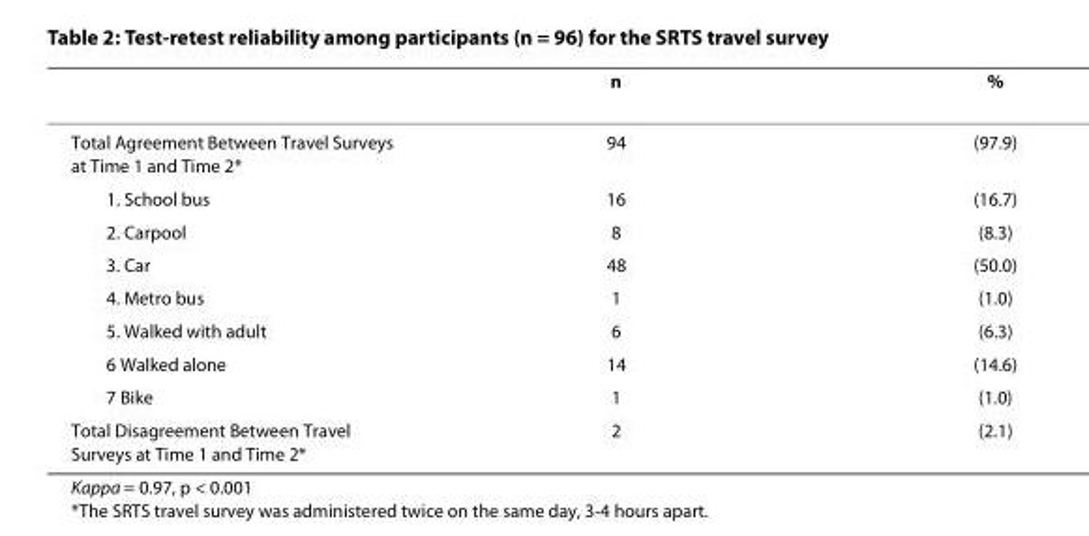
<table><thead><tr><td></td><td>n</td><td>%</td></tr></thead><tbody><tr><td>Total Agreement Between Travel Surveys at Time 1 and Time 2*</td><td>94</td><td>(97.9)</td></tr><tr><td>1. School bus</td><td>16</td><td>(16.7)</td></tr><tr><td>2. Carpool</td><td>8</td><td>(8.3)</td></tr><tr><td>3. Car</td><td>48</td><td>(50.0)</td></tr><tr><td>4. Metro bus</td><td>1</td><td>(1.0)</td></tr><tr><td>5. Walked with adult</td><td>6</td><td>(6.3)</td></tr><tr><td>6 Walked alone</td><td>14</td><td>(14.6)</td></tr><tr><td>7 Bike</td><td>1</td><td>(1.0)</td></tr><tr><td>Total Disagreement Between Travel Surveys at Time 1 and Time 2*</td><td>2</td><td>(2.1)</td></tr></tbody></table>